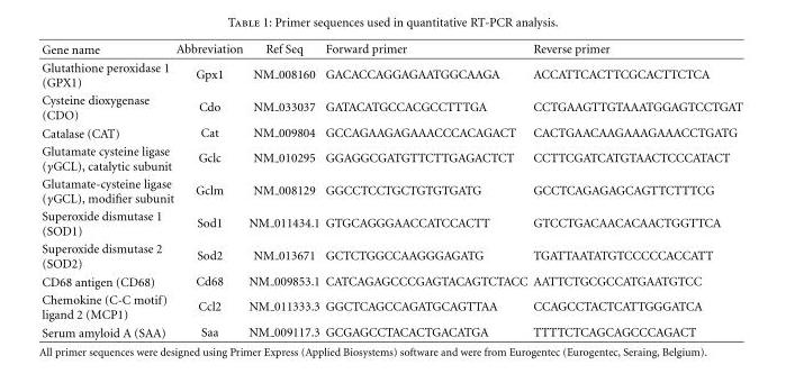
<table><thead><tr><td>Gene name</td><td>Abbreviation</td><td>Ref Seq</td><td>Forward primer</td><td>Reverse primer</td></tr></thead><tbody><tr><td>Glutathione peroxidase 1 (GPX1)</td><td>Gpx1</td><td>NM 008160</td><td>GACACCAGGAGAATGGCAAGA</td><td>ACCATTCACTTCGCACTTCTCA</td></tr><tr><td>Cysteine dioxygenase (CDO)</td><td>Cdo</td><td>NM 033037</td><td>GATACATGCCACGCCTTTGA</td><td>CCTGAAGTTGTAAATGGAGTCCTGAT</td></tr><tr><td>Catalase (CAT)</td><td>Cat</td><td>NM 009804</td><td>GCCAGAAGAGAAACCCACAGACT</td><td>CACTGAACAAGAAAGAAACCTGATG</td></tr><tr><td>Glutamate cysteine ligase (γGCL), catalytic subunit</td><td>Gclc</td><td>NM 010295</td><td>GGAGGCGATGTTCTTGAGACTCT</td><td>CCTTCGATCATGTAACTCCCATACT</td></tr><tr><td>Glutamate-cysteine ligase (γGCL), modifier subunit</td><td>Gclm</td><td>NM 008129</td><td>GGCCTCCTGCTGTGTGATG</td><td>GCCTCAGAGAGCAGTTCTTTCG</td></tr><tr><td>Superoxide dismutase 1 (SOD1)</td><td>Sod1</td><td>NM 011434.1</td><td>GTGCAGGGAACCATCCACTT</td><td>GTCCTGACAACACAACTGGTTCA</td></tr><tr><td>Superoxide dismutase 2 (SOD2)</td><td>Sod2</td><td>NM 013671</td><td>GCTCTGGCCAAGGGAGATG</td><td>TGATTAATATGTCCCCCACCATT</td></tr><tr><td>CD68 antigen (CD68)</td><td>Cd68</td><td>NM 009853.1</td><td>CATCAGAGCCCGAGTACAGTCTACC</td><td>AATTCTGCGCCATGAATGTCC</td></tr><tr><td>Chemokine (C-C motif) ligand 2 (MCP1)</td><td>Ccl2</td><td>NM 011333.3</td><td>GGCTCAGCCAGATGCAGTTAA</td><td>CCAGCCTACTCATTGGGATCA</td></tr><tr><td>Serum amyloid A (SAA)</td><td>Saa</td><td>NM 009117.3</td><td>GCGAGCCTACACTGACATGA</td><td>TTTTCTCAGCAGCCCAGACT</td></tr></tbody></table>